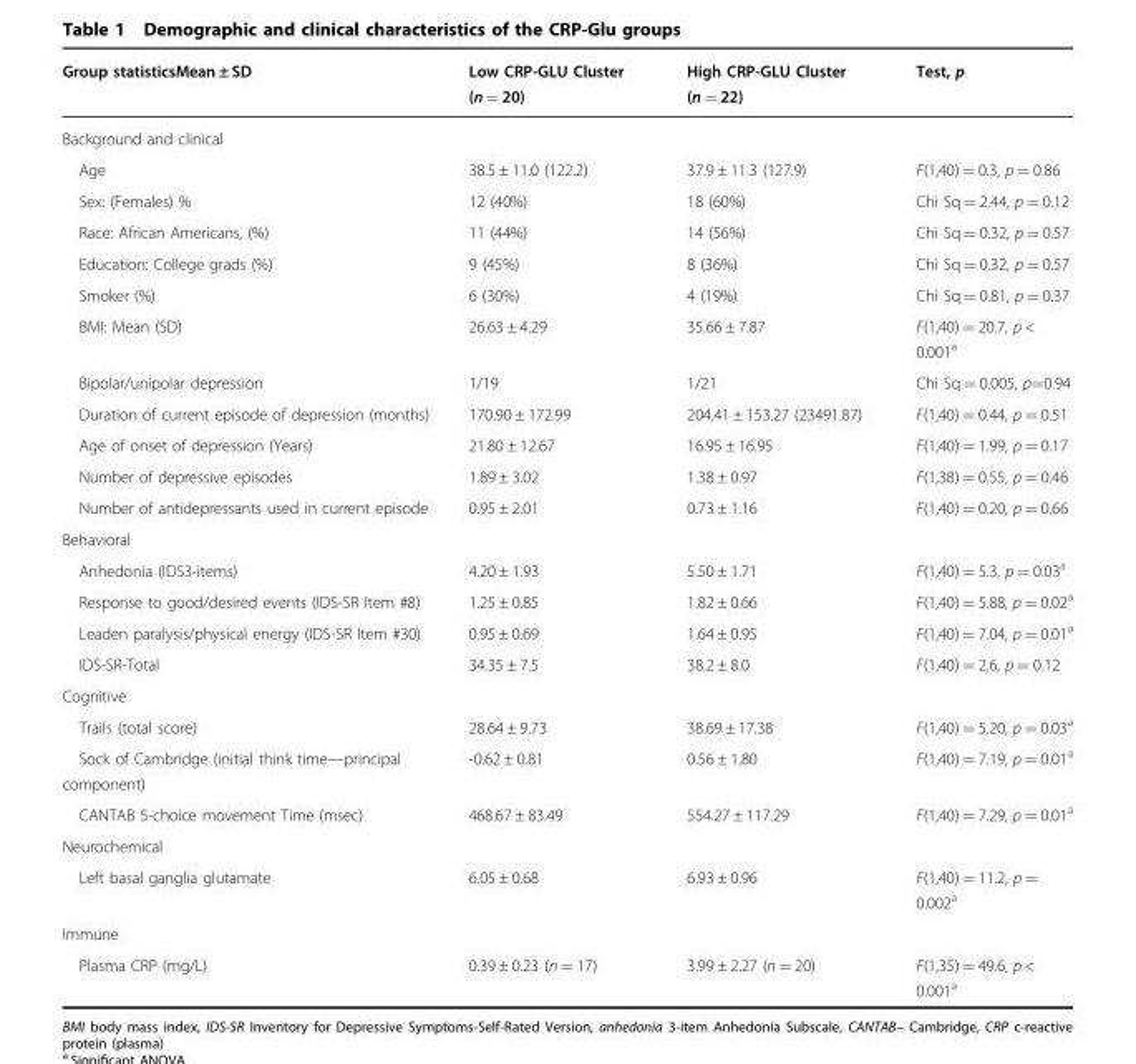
<table><thead><tr><td>Group statisticsMean ± SD</td><td>Low CRP-GLU Cluster (n = 20)</td><td>High CRP-GLU Cluster (n = 22)</td><td>Test, p</td></tr></thead><tbody><tr><td colspan="4">Background and clinical</td></tr><tr><td>Age</td><td>38.5 ± 11.0 (122.2)</td><td>37.9 ± 11.3 (127.9)</td><td>F(1,40) = 0.3, p = 0.86</td></tr><tr><td>Sex: (Females) %</td><td>12 (40%)</td><td>18 (60%)</td><td>Chi Sq = 2.44, p = 0.12</td></tr><tr><td>Race: African Americans, (%)</td><td>11 (44%)</td><td>14 (56%)</td><td>Chi Sq = 0.32, p = 0.57</td></tr><tr><td>Education: College grads (%)</td><td>9 (45%)</td><td>8 (36%)</td><td>Chi Sq = 0.32, p = 0.57</td></tr><tr><td>Smoker (%)</td><td>6 (30%)</td><td>4 (19%)</td><td>Chi Sq = 0.81, p = 0.37</td></tr><tr><td>BMI: Mean (SD)</td><td>26.63 ± 4.29</td><td>35.66 ± 7.87</td><td>F(1,40) = 20.7, p &lt; 0.001<sup>a</sup></td></tr><tr><td>Bipolar/unipolar depression</td><td>1/19</td><td>1/21</td><td>Chi Sq = 0.005, p=0.94</td></tr><tr><td>Duration of current episode of depression (months)</td><td>170.90 ± 172.99</td><td>204.41 ± 153.27 (23491.87)</td><td>F(1,40) = 0.44, p = 0.51</td></tr><tr><td>Age of onset of depression (Years)</td><td>21.80 ± 12.67</td><td>16.95 ± 16.95</td><td>F(1,40) = 1.99, p = 0.17</td></tr><tr><td>Number of depressive episodes</td><td>1.89 ± 3.02</td><td>1.38 ± 0.97</td><td>F(1,38) = 0.55, p = 0.46</td></tr><tr><td>Number of antidepressants used in current episode</td><td>0.95 ± 2.01</td><td>0.73 ± 1.16</td><td>F(1,40) = 0.20, p = 0.66</td></tr><tr><td colspan="4">Behavioral</td></tr><tr><td>Anhedonia (IDS3-items)</td><td>4.20 ± 1.93</td><td>5.50 ± 1.71</td><td>F(1,40) = 5.3, p = 0.03<sup>a</sup></td></tr><tr><td>Response to good/desired events (IDS-SR Item #8)</td><td>1.25 ± 0.85</td><td>1.82 ± 0.66</td><td>F(1,40) = 5.88, p = 0.02<sup>a</sup></td></tr><tr><td>Leaden paralysis/physical energy (IDS-SR Item #30)</td><td>0.95 ± 0.69</td><td>1.64 ± 0.95</td><td>F(1,40) = 7.04, p = 0.01<sup>a</sup></td></tr><tr><td>IDS-SR-Total</td><td>34.35 ± 7.5</td><td>38.2 ± 8.0</td><td>F(1,40) = 2.6, p = 0.12</td></tr><tr><td colspan="4">Cognitive</td></tr><tr><td>Trails (total score)</td><td>28.64 ± 9.73</td><td>38.69 ± 17.38</td><td>F(1,40) = 5.20, p = 0.03<sup>a</sup></td></tr><tr><td>Sock of Cambridge (initial think time—principal component)</td><td>-0.62 ± 0.81</td><td>0.56 ± 1.80</td><td>F(1,40) = 7.19, p = 0.01<sup>a</sup></td></tr><tr><td>CANTAB 5-choice movement Time (msec)</td><td>468.67 ± 83.49</td><td>554.27 ± 117.29</td><td>F(1,40) = 7.29, p = 0.01<sup>a</sup></td></tr><tr><td colspan="4">Neurochemical</td></tr><tr><td>Left basal ganglia glutamate</td><td>6.05 ± 0.68</td><td>6.93 ± 0.96</td><td>F(1,40) = 11.2, p = 0.002<sup>a</sup></td></tr><tr><td colspan="4">Immune</td></tr><tr><td>Plasma CRP (mg/L)</td><td>0.39 ± 0.23 (n = 17)</td><td>3.99 ± 2.27 (n = 20)</td><td>F(1,35) = 49.6, p &lt; 0.001<sup>a</sup></td></tr></tbody></table>